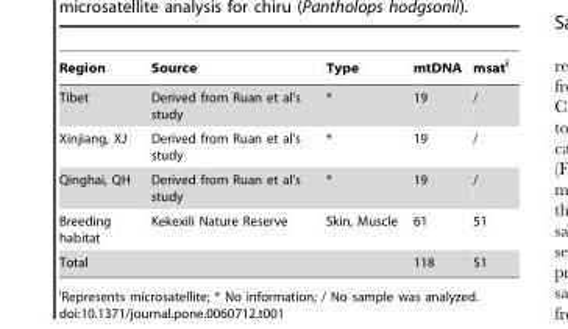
<table><thead><tr><td>Region</td><td>Source</td><td>Type</td><td>mtDNA</td><td>msat<sup>i</sup></td></tr></thead><tbody><tr><td>Tibet</td><td>Derived from Ruan et al’s study</td><td>*</td><td>19</td><td>/</td></tr><tr><td>Xinjiang, XJ</td><td>Derived from Ruan et al’s study</td><td>*</td><td>19</td><td>/</td></tr><tr><td>Qinghai, QH</td><td>Derived from Ruan et al’s study</td><td>*</td><td>19</td><td>/</td></tr><tr><td>Breeding habitat</td><td>Kekexili Nature Reserve</td><td>Skin, Muscle</td><td>61</td><td>51</td></tr><tr><td>Total</td><td></td><td></td><td>118</td><td>51</td></tr></tbody></table>